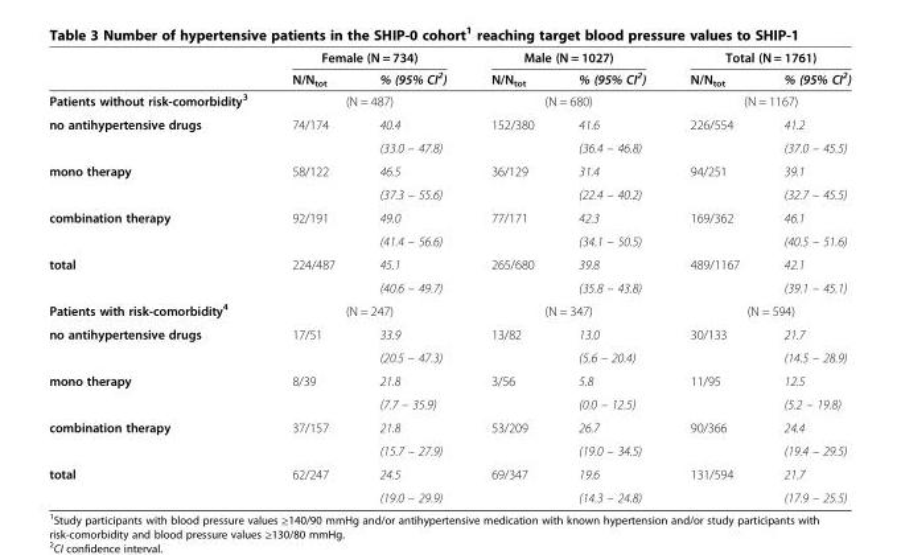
<table><thead><tr><td rowspan="2"></td><td colspan="2">Female (N = 734)</td><td colspan="2">Male (N = 1027)</td><td colspan="2">Total (N = 1761)</td></tr><tr><td>N/N<sub>tot</sub></td><td>% (95% CI<sup>2</sup>)</td><td>N/N<sub>tot</sub></td><td>% (95% CI<sup>2</sup>)</td><td>N/N<sub>tot</sub></td><td>% (95% CI<sup>2</sup>)</td></tr></thead><tbody><tr><td>Patients without risk-comorbidity<sup>3</sup></td><td colspan="2">(N = 487)</td><td colspan="2">(N = 680)</td><td colspan="2">(N = 1167)</td></tr><tr><td rowspan="2">no antihypertensive drugs</td><td rowspan="2">74/174</td><td>40.4</td><td rowspan="2">152/380</td><td>41.6</td><td rowspan="2">226/554</td><td>41.2</td></tr><tr><td>(33.0 – 47.8)</td><td>(36.4 – 46.8)</td><td>(37.0 – 45.5)</td></tr><tr><td rowspan="2">mono therapy</td><td rowspan="2">58/122</td><td>46.5</td><td rowspan="2">36/129</td><td>31.4</td><td rowspan="2">94/251</td><td>39.1</td></tr><tr><td>(37.3 – 55.6)</td><td>(22.4 – 40.2)</td><td>(32.7 – 45.5)</td></tr><tr><td rowspan="2">combination therapy</td><td rowspan="2">92/191</td><td>49.0</td><td rowspan="2">77/171</td><td>42.3</td><td rowspan="2">169/362</td><td>46.1</td></tr><tr><td>(41.4 – 56.6)</td><td>(34.1 – 50.5)</td><td>(40.5 – 51.6)</td></tr><tr><td rowspan="2">total</td><td rowspan="2">224/487</td><td>45.1</td><td rowspan="2">265/680</td><td>39.8</td><td rowspan="2">489/1167</td><td>42.1</td></tr><tr><td>(40.6 – 49.7)</td><td>(35.8 – 43.8)</td><td>(39.1 – 45.1)</td></tr><tr><td>Patients with risk-comorbidity<sup>4</sup></td><td colspan="2">(N = 247)</td><td colspan="2">(N = 347)</td><td colspan="2">(N = 594)</td></tr><tr><td rowspan="2">no antihypertensive drugs</td><td rowspan="2">17/51</td><td>33.9</td><td rowspan="2">13/82</td><td>13.0</td><td rowspan="2">30/133</td><td>21.7</td></tr><tr><td>(20.5 – 47.3)</td><td>(5.6 – 20.4)</td><td>(14.5 – 28.9)</td></tr><tr><td rowspan="2">mono therapy</td><td rowspan="2">8/39</td><td>21.8</td><td rowspan="2">3/56</td><td>5.8</td><td rowspan="2">11/95</td><td>12.5</td></tr><tr><td>(7.7 – 35.9)</td><td>(0.0 – 12.5)</td><td>(5.2 – 19.8)</td></tr><tr><td rowspan="2">combination therapy</td><td rowspan="2">37/157</td><td>21.8</td><td rowspan="2">53/209</td><td>26.7</td><td rowspan="2">90/366</td><td>24.4</td></tr><tr><td>(15.7 – 27.9)</td><td>(19.0 – 34.5)</td><td>(19.4 – 29.5)</td></tr><tr><td rowspan="2">total</td><td>62/247</td><td>24.5</td><td>69/347</td><td>19.6</td><td>131/594</td><td>21.7</td></tr><tr><td></td><td>(19.0 – 29.9)</td><td></td><td>(14.3 – 24.8)</td><td></td><td>(17.9 – 25.5)</td></tr></tbody></table>